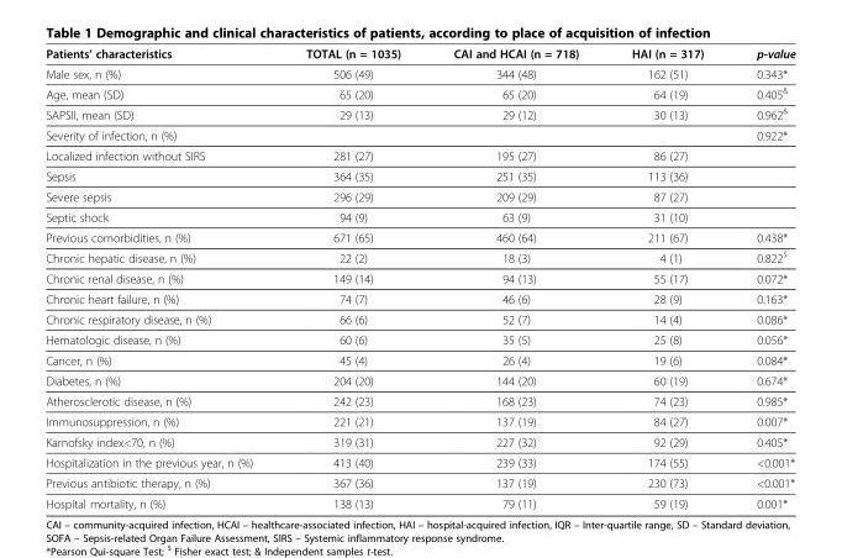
<table><thead><tr><td>Patients’ characteristics</td><td>TOTAL (n = 1035)</td><td>CAI and HCAI (n = 718)</td><td>HAI (n = 317)</td><td>p-value</td></tr></thead><tbody><tr><td>Male sex, n (%)</td><td>506 (49)</td><td>344 (48)</td><td>162 (51)</td><td>0.343*</td></tr><tr><td>Age, mean (SD)</td><td>65 (20)</td><td>65 (20)</td><td>64 (19)</td><td>0.405<sup>&amp;</sup></td></tr><tr><td>SAPSII, mean (SD)</td><td>29 (13)</td><td>29 (12)</td><td>30 (13)</td><td>0.962<sup>&amp;</sup></td></tr><tr><td>Severity of infection, n (%)</td><td></td><td></td><td></td><td>0.922*</td></tr><tr><td>Localized infection without SIRS</td><td>281 (27)</td><td>195 (27)</td><td>86 (27)</td><td></td></tr><tr><td>Sepsis</td><td>364 (35)</td><td>251 (35)</td><td>113 (36)</td><td></td></tr><tr><td>Severe sepsis</td><td>296 (29)</td><td>209 (29)</td><td>87 (27)</td><td></td></tr><tr><td>Septic shock</td><td>94 (9)</td><td>63 (9)</td><td>31 (10)</td><td></td></tr><tr><td>Previous comorbidities, n (%)</td><td>671 (65)</td><td>460 (64)</td><td>211 (67)</td><td>0.438*</td></tr><tr><td>Chronic hepatic disease, n (%)</td><td>22 (2)</td><td>18 (3)</td><td>4 (1)</td><td>0.822<sup>$</sup></td></tr><tr><td>Chronic renal disease, n (%)</td><td>149 (14)</td><td>94 (13)</td><td>55 (17)</td><td>0.072*</td></tr><tr><td>Chronic heart failure, n (%)</td><td>74 (7)</td><td>46 (6)</td><td>28 (9)</td><td>0.163*</td></tr><tr><td>Chronic respiratory disease, n (%)</td><td>66 (6)</td><td>52 (7)</td><td>14 (4)</td><td>0.086*</td></tr><tr><td>Hematologic disease, n (%)</td><td>60 (6)</td><td>35 (5)</td><td>25 (8)</td><td>0.056*</td></tr><tr><td>Cancer, n (%)</td><td>45 (4)</td><td>26 (4)</td><td>19 (6)</td><td>0.084*</td></tr><tr><td>Diabetes, n (%)</td><td>204 (20)</td><td>144 (20)</td><td>60 (19)</td><td>0.674*</td></tr><tr><td>Atherosclerotic disease, n (%)</td><td>242 (23)</td><td>168 (23)</td><td>74 (23)</td><td>0.985*</td></tr><tr><td>Immunosuppression, n (%)</td><td>221 (21)</td><td>137 (19)</td><td>84 (27)</td><td>0.007*</td></tr><tr><td>Karnofsky index&lt;70, n (%)</td><td>319 (31)</td><td>227 (32)</td><td>92 (29)</td><td>0.405*</td></tr><tr><td>Hospitalization in the previous year, n (%)</td><td>413 (40)</td><td>239 (33)</td><td>174 (55)</td><td>&lt;0.001*</td></tr><tr><td>Previous antibiotic therapy, n (%)</td><td>367 (36)</td><td>137 (19)</td><td>230 (73)</td><td>&lt;0.001*</td></tr><tr><td>Hospital mortality, n (%)</td><td>138 (13)</td><td>79 (11)</td><td>59 (19)</td><td>0.001*</td></tr></tbody></table>